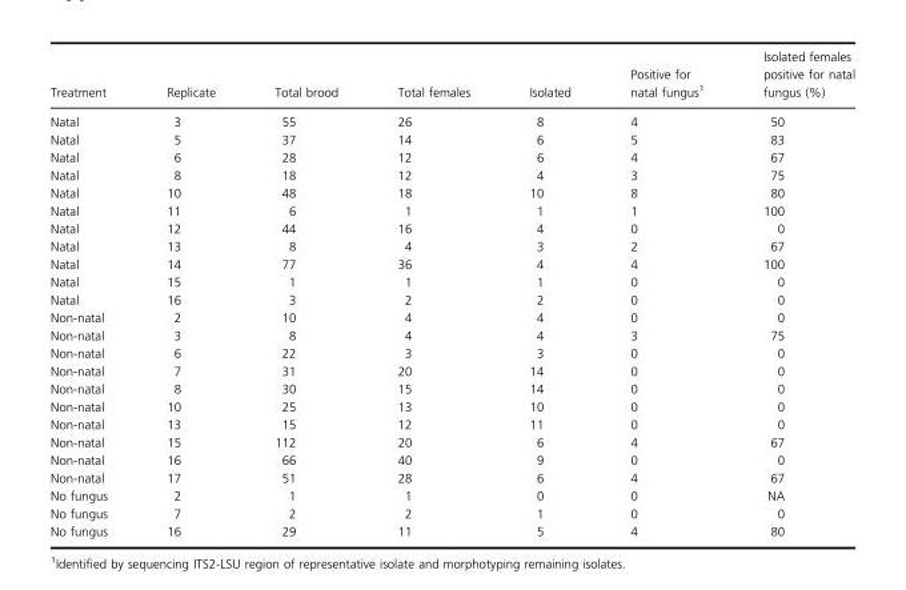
<table><thead><tr><td>Treatment</td><td>Replicate</td><td>Total brood</td><td>Total females</td><td>Isolated</td><td>Positive for natal fungus1</td><td>Isolated females positive for natal fungus (%)</td></tr></thead><tbody><tr><td>Natal</td><td>3</td><td>55</td><td>26</td><td>8</td><td>4</td><td>50</td></tr><tr><td>Natal</td><td>5</td><td>37</td><td>14</td><td>6</td><td>5</td><td>83</td></tr><tr><td>Natal</td><td>6</td><td>28</td><td>12</td><td>6</td><td>4</td><td>67</td></tr><tr><td>Natal</td><td>8</td><td>18</td><td>12</td><td>4</td><td>3</td><td>75</td></tr><tr><td>Natal</td><td>10</td><td>48</td><td>18</td><td>10</td><td>8</td><td>80</td></tr><tr><td>Natal</td><td>11</td><td>6</td><td>1</td><td>1</td><td>1</td><td>100</td></tr><tr><td>Natal</td><td>12</td><td>44</td><td>16</td><td>4</td><td>0</td><td>0</td></tr><tr><td>Natal</td><td>13</td><td>8</td><td>4</td><td>3</td><td>2</td><td>67</td></tr><tr><td>Natal</td><td>14</td><td>77</td><td>36</td><td>4</td><td>4</td><td>100</td></tr><tr><td>Natal</td><td>15</td><td>1</td><td>1</td><td>1</td><td>0</td><td>0</td></tr><tr><td>Natal</td><td>16</td><td>3</td><td>2</td><td>2</td><td>0</td><td>0</td></tr><tr><td>Non-natal</td><td>2</td><td>10</td><td>4</td><td>4</td><td>0</td><td>0</td></tr><tr><td>Non-natal</td><td>3</td><td>8</td><td>4</td><td>4</td><td>3</td><td>75</td></tr><tr><td>Non-natal</td><td>6</td><td>22</td><td>3</td><td>3</td><td>0</td><td>0</td></tr><tr><td>Non-natal</td><td>7</td><td>31</td><td>20</td><td>14</td><td>0</td><td>0</td></tr><tr><td>Non-natal</td><td>8</td><td>30</td><td>15</td><td>14</td><td>0</td><td>0</td></tr><tr><td>Non-natal</td><td>10</td><td>25</td><td>13</td><td>10</td><td>0</td><td>0</td></tr><tr><td>Non-natal</td><td>13</td><td>15</td><td>12</td><td>11</td><td>0</td><td>0</td></tr><tr><td>Non-natal</td><td>15</td><td>112</td><td>20</td><td>6</td><td>4</td><td>67</td></tr><tr><td>Non-natal</td><td>16</td><td>66</td><td>40</td><td>9</td><td>0</td><td>0</td></tr><tr><td>Non-natal</td><td>17</td><td>51</td><td>28</td><td>6</td><td>4</td><td>67</td></tr><tr><td>No fungus</td><td>2</td><td>1</td><td>1</td><td>0</td><td>0</td><td>NA</td></tr><tr><td>No fungus</td><td>7</td><td>2</td><td>2</td><td>1</td><td>0</td><td>0</td></tr><tr><td>No fungus</td><td>16</td><td>29</td><td>11</td><td>5</td><td>4</td><td>80</td></tr></tbody></table>